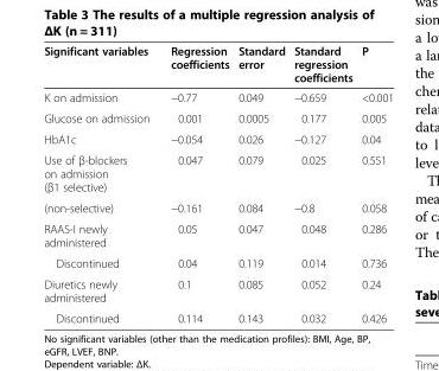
<table><thead><tr><td>Significant variables</td><td>Regression coefficients</td><td>Standard error</td><td>Standard regression coefficients</td><td>P</td></tr></thead><tbody><tr><td>K on admission</td><td>−0.77</td><td>0.049</td><td>−0.659</td><td>&lt;0.001</td></tr><tr><td>Glucose on admission</td><td>0.001</td><td>0.0005</td><td>0.177</td><td>0.005</td></tr><tr><td>HbA1c</td><td>−0.054</td><td>0.026</td><td>−0.127</td><td>0.04</td></tr><tr><td>Use of β-blockers on admission (β1 selective)</td><td>0.047</td><td>0.079</td><td>0.025</td><td>0.551</td></tr><tr><td>(non-selective)</td><td>−0.161</td><td>0.084</td><td>−0.8</td><td>0.058</td></tr><tr><td>RAAS-I newly administered</td><td>0.05</td><td>0.047</td><td>0.048</td><td>0.286</td></tr><tr><td>Discontinued</td><td>0.04</td><td>0.119</td><td>0.014</td><td>0.736</td></tr><tr><td>Diuretics newly administered</td><td>0.1</td><td>0.085</td><td>0.052</td><td>0.24</td></tr><tr><td>Discontinued</td><td>0.114</td><td>0.143</td><td>0.032</td><td>0.426</td></tr></tbody></table>